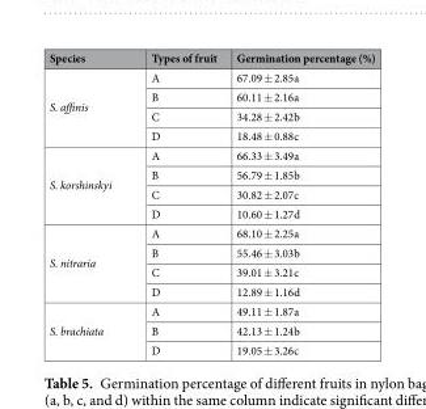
<table><thead><tr><td>Species</td><td>Types of fruit</td><td>Germination percentage (%)</td></tr></thead><tbody><tr><td rowspan="4">S. affinis</td><td>A</td><td>67.09 ± 2.85a</td></tr><tr><td>B</td><td>60.11 ± 2.16a</td></tr><tr><td>C</td><td>34.28 ± 2.42b</td></tr><tr><td>D</td><td>18.48 ± 0.88c</td></tr><tr><td rowspan="4">S. korshinskyi</td><td>A</td><td>66.33 ± 3.49a</td></tr><tr><td>B</td><td>56.79 ± 1.85b</td></tr><tr><td>C</td><td>30.82 ± 2.07c</td></tr><tr><td>D</td><td>10.60 ± 1.27d</td></tr><tr><td rowspan="4">S. nitraria</td><td>A</td><td>68.10 ± 2.25a</td></tr><tr><td>B</td><td>55.46 ± 3.03b</td></tr><tr><td>C</td><td>39.01 ± 3.21c</td></tr><tr><td>D</td><td>12.89 ± 1.16d</td></tr><tr><td rowspan="3">S. brachiata</td><td>A</td><td>49.11 ± 1.87a</td></tr><tr><td>B</td><td>42.13 ± 1.24b</td></tr><tr><td>D</td><td>19.05 ± 3.26c</td></tr></tbody></table>